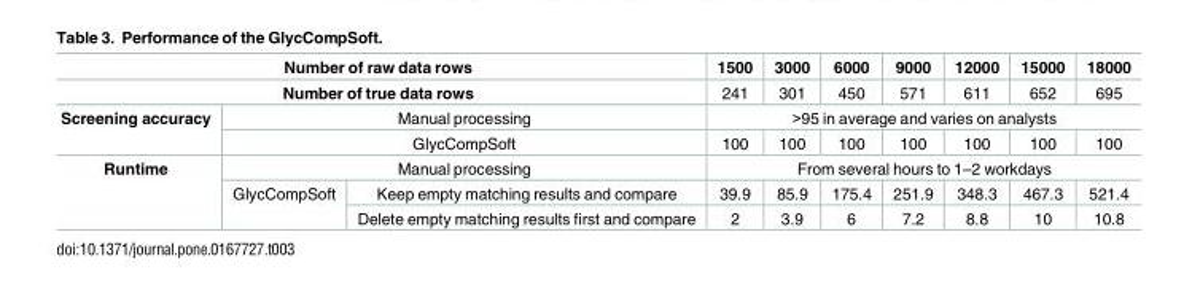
<table><thead><tr><td colspan="3">Number of raw data rows</td><td>1500</td><td>3000</td><td>6000</td><td>9000</td><td>12000</td><td>15000</td><td>18000</td></tr></thead><tbody><tr><td colspan="3">Number of true data rows</td><td>241</td><td>301</td><td>450</td><td>571</td><td>611</td><td>652</td><td>695</td></tr><tr><td rowspan="2">Screening accuracy</td><td colspan="2">Manual processing</td><td colspan="7">&gt;95 in average and varies on analysts</td></tr><tr><td colspan="2">GlycCompSoft</td><td>100</td><td>100</td><td>100</td><td>100</td><td>100</td><td>100</td><td>100</td></tr><tr><td rowspan="3">Runtime</td><td colspan="2">Manual processing</td><td colspan="7">From several hours to 1–2 workdays</td></tr><tr><td rowspan="2">GlycCompSoft</td><td>Keep empty matching results and compare</td><td>39.9</td><td>85.9</td><td>175.4</td><td>251.9</td><td>348.3</td><td>467.3</td><td>521.4</td></tr><tr><td>Delete empty matching results first and compare</td><td>2</td><td>3.9</td><td>6</td><td>7.2</td><td>8.8</td><td>10</td><td>10.8</td></tr></tbody></table>